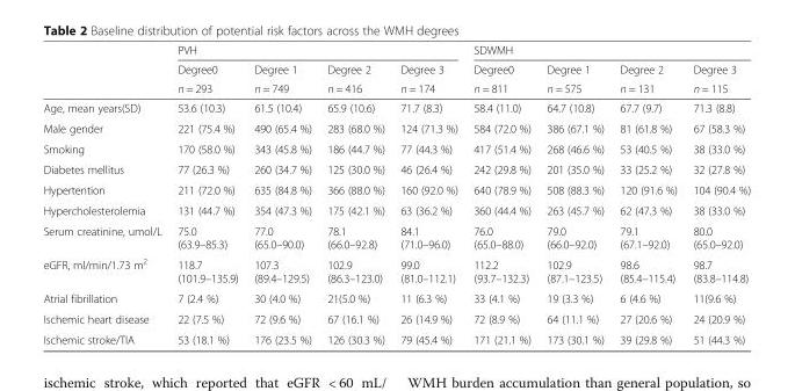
<table><thead><tr><td rowspan="3"></td><td colspan="4">PVH</td><td colspan="4">SDWMH</td></tr><tr><td rowspan="2">Degree0 n = 293</td><td rowspan="2">Degree 1 n = 749</td><td rowspan="2">Degree 2 n = 416</td><td rowspan="2">Degree 3 n = 174</td><td rowspan="2">Degree0 n = 811</td><td rowspan="2">Degree 1 n = 575</td><td rowspan="2">Degree 2 n = 131</td><td rowspan="2">Degree 3 n = 115</td></tr><tr></tr></thead><tbody><tr><td>Age, mean years(SD)</td><td>53.6 (10.3)</td><td>61.5 (10.4)</td><td>65.9 (10.6)</td><td>71.7 (8.3)</td><td>58.4 (11.0)</td><td>64.7 (10.8)</td><td>67.7 (9.7)</td><td>71.3 (8.8)</td></tr><tr><td>Male gender</td><td>221 (75.4 %)</td><td>490 (65.4 %)</td><td>283 (68.0 %)</td><td>124 (71.3 %)</td><td>584 (72.0 %)</td><td>386 (67.1 %)</td><td>81 (61.8 %)</td><td>67 (58.3 %)</td></tr><tr><td>Smoking</td><td>170 (58.0 %)</td><td>343 (45.8 %)</td><td>186 (44.7 %)</td><td>77 (44.3 %)</td><td>417 (51.4 %)</td><td>268 (46.6 %)</td><td>53 (40.5 %)</td><td>38 (33.0 %)</td></tr><tr><td>Diabetes mellitus</td><td>77 (26.3 %)</td><td>260 (34.7 %)</td><td>125 (30.0 %)</td><td>46 (26.4 %)</td><td>242 (29.8 %)</td><td>201 (35.0 %)</td><td>33 (25.2 %)</td><td>32 (27.8 %)</td></tr><tr><td>Hypertention</td><td>211 (72.0 %)</td><td>635 (84.8 %)</td><td>366 (88.0 %)</td><td>160 (92.0 %)</td><td>640 (78.9 %)</td><td>508 (88.3 %)</td><td>120 (91.6 %)</td><td>104 (90.4 %)</td></tr><tr><td>Hypercholesterolemia</td><td>131 (44.7 %)</td><td>354 (47.3 %)</td><td>175 (42.1 %)</td><td>63 (36.2 %)</td><td>360 (44.4 %)</td><td>263 (45.7 %)</td><td>62 (47.3 %)</td><td>38 (33.0 %)</td></tr><tr><td>Serum creatinine, umol/L</td><td>75.0 (63.9–85.3)</td><td>77.0 (65.0–90.0)</td><td>78.1 (66.0–92.8)</td><td>84.1 (71.0–96.0)</td><td>76.0 (65.0–88.0)</td><td>79.0 (66.0–92.0)</td><td>79.1 (67.1–92.0)</td><td>80.0 (65.0–92.0)</td></tr><tr><td>eGFR, ml/min/1.73 m<sup>2</sup></td><td>118.7 (101.9–135.9)</td><td>107.3 (89.4–129.5)</td><td>102.9 (86.3–123.0)</td><td>99.0 (81.0–112.1)</td><td>112.2 (93.7–132.3)</td><td>102.9 (87.1–123.5)</td><td>98.6 (85.4–115.4)</td><td>98.7 (83.8–114.8)</td></tr><tr><td>Atrial fibrillation</td><td>7 (2.4 %)</td><td>30 (4.0 %)</td><td>21(5.0 %)</td><td>11 (6.3 %)</td><td>33 (4.1 %)</td><td>19 (3.3 %)</td><td>6 (4.6 %)</td><td>11(9.6 %)</td></tr><tr><td>Ischemic heart disease</td><td>22 (7.5 %)</td><td>72 (9.6 %)</td><td>67 (16.1 %)</td><td>26 (14.9 %)</td><td>72 (8.9 %)</td><td>64 (11.1 %)</td><td>27 (20.6 %)</td><td>24 (20.9 %)</td></tr><tr><td>Ischemic stroke/TIA</td><td>53 (18.1 %)</td><td>176 (23.5 %)</td><td>126 (30.3 %)</td><td>79 (45.4 %)</td><td>171 (21.1 %)</td><td>173 (30.1 %)</td><td>39 (29.8 %)</td><td>51 (44.3 %)</td></tr></tbody></table>